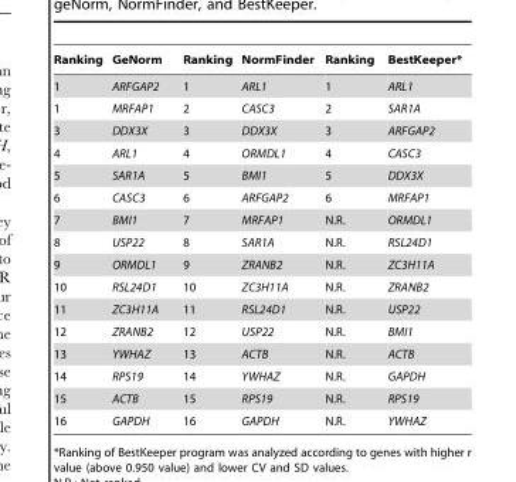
<table><thead><tr><td>Ranking</td><td>GeNorm</td><td>Ranking</td><td>NormFinder</td><td>Ranking</td><td>BestKeeper*</td></tr></thead><tbody><tr><td>1</td><td>ARFGAP2</td><td>1</td><td>ARL1</td><td>1</td><td>ARL1</td></tr><tr><td>1</td><td>MRFAP1</td><td>2</td><td>CASC3</td><td>2</td><td>SAR1A</td></tr><tr><td>3</td><td>DDX3X</td><td>3</td><td>DDX3X</td><td>3</td><td>ARFGAP2</td></tr><tr><td>4</td><td>ARL1</td><td>4</td><td>ORMDL1</td><td>4</td><td>CASC3</td></tr><tr><td>5</td><td>SAR1A</td><td>5</td><td>BMI1</td><td>5</td><td>DDX3X</td></tr><tr><td>6</td><td>CASC3</td><td>6</td><td>ARFGAP2</td><td>6</td><td>MRFAP1</td></tr><tr><td>7</td><td>BMI1</td><td>7</td><td>MRFAP1</td><td>N.R.</td><td>ORMDL1</td></tr><tr><td>8</td><td>USP22</td><td>8</td><td>SAR1A</td><td>N.R.</td><td>RSL24D1</td></tr><tr><td>9</td><td>ORMDL1</td><td>9</td><td>ZRANB2</td><td>N.R.</td><td>ZC3H11A</td></tr><tr><td>10</td><td>RSL24D1</td><td>10</td><td>ZC3H11A</td><td>N.R.</td><td>ZRANB2</td></tr><tr><td>11</td><td>ZC3H11A</td><td>11</td><td>RSL24D1</td><td>N.R.</td><td>USP22</td></tr><tr><td>12</td><td>ZRANB2</td><td>12</td><td>USP22</td><td>N.R.</td><td>BMI1</td></tr><tr><td>13</td><td>YWHAZ</td><td>13</td><td>ACTB</td><td>N.R.</td><td>ACTB</td></tr><tr><td>14</td><td>RPS19</td><td>14</td><td>YWHAZ</td><td>N.R.</td><td>GAPDH</td></tr><tr><td>15</td><td>ACTB</td><td>15</td><td>RPS19</td><td>N.R.</td><td>RPS19</td></tr><tr><td>16</td><td>GAPDH</td><td>16</td><td>GAPDH</td><td>N.R.</td><td>YWHAZ</td></tr></tbody></table>